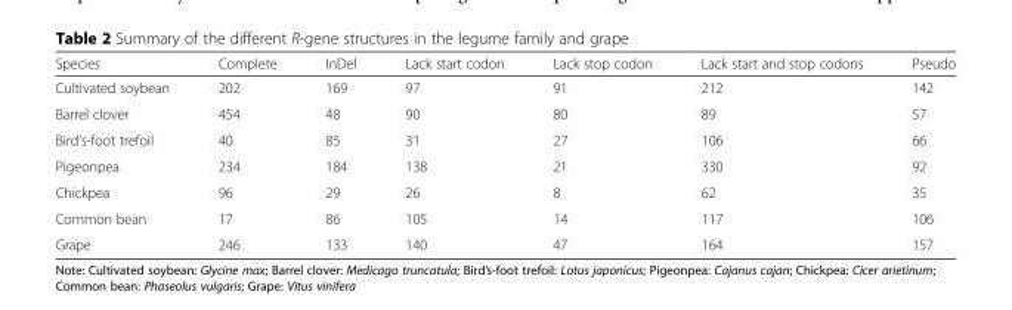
<table><thead><tr><td>Species</td><td>Complete</td><td>InDel</td><td>Lack start codon</td><td>Lack stop codon</td><td>Lack start and stop codons</td><td>Pseudo</td></tr></thead><tbody><tr><td>Cultivated soybean</td><td>202</td><td>169</td><td>97</td><td>91</td><td>212</td><td>142</td></tr><tr><td>Barrel clover</td><td>454</td><td>48</td><td>90</td><td>80</td><td>89</td><td>57</td></tr><tr><td>Bird’s-foot trefoil</td><td>40</td><td>85</td><td>31</td><td>27</td><td>106</td><td>66</td></tr><tr><td>Pigeonpea</td><td>234</td><td>184</td><td>138</td><td>21</td><td>330</td><td>92</td></tr><tr><td>Chickpea</td><td>96</td><td>29</td><td>26</td><td>8</td><td>62</td><td>35</td></tr><tr><td>Common bean</td><td>17</td><td>86</td><td>105</td><td>14</td><td>117</td><td>106</td></tr><tr><td>Grape</td><td>246</td><td>133</td><td>140</td><td>47</td><td>164</td><td>157</td></tr></tbody></table>